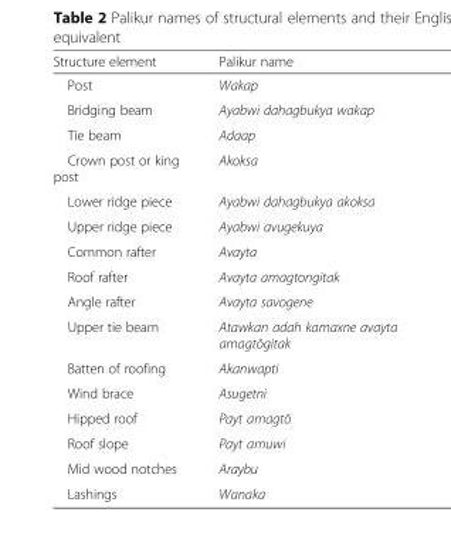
<table><thead><tr><td>Structure element</td><td>Palikur name</td></tr></thead><tbody><tr><td>Post</td><td>Wakap</td></tr><tr><td>Bridging beam</td><td>Ayabwi dahagbukya wakap</td></tr><tr><td>Tie beam</td><td>Adaap</td></tr><tr><td>Crown post or king post</td><td>Akoksa</td></tr><tr><td>Lower ridge piece</td><td>Ayabwi dahagbukya akoksa</td></tr><tr><td>Upper ridge piece</td><td>Ayabwi avugekuya</td></tr><tr><td>Common rafter</td><td>Avayta</td></tr><tr><td>Roof rafter</td><td>Avayta amagtongitak</td></tr><tr><td>Angle rafter</td><td>Avayta savogene</td></tr><tr><td>Upper tie beam</td><td>Atawkan adah kamaxne avayta amagtõgitak</td></tr><tr><td>Batten of roofing</td><td>Akanwapti</td></tr><tr><td>Wind brace</td><td>Asugetni</td></tr><tr><td>Hipped roof</td><td>Payt amagtõ</td></tr><tr><td>Roof slope</td><td>Payt amuwi</td></tr><tr><td>Mid wood notches</td><td>Araybu</td></tr><tr><td>Lashings</td><td>Wanaka</td></tr></tbody></table>